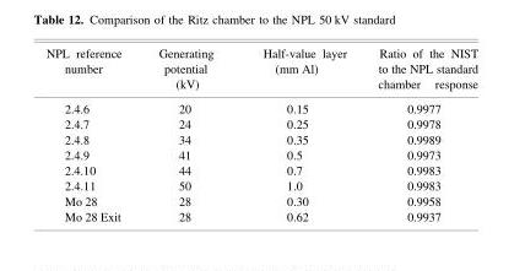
<table><thead><tr><td>NPL reference number</td><td>Generating potential (kV)</td><td>Half-value layer (mm Al)</td><td>Ratio of the NIST to the NPL standard chamber response</td></tr></thead><tbody><tr><td>2.4.6</td><td>20</td><td>0.15</td><td>0.9977</td></tr><tr><td>2.4.7</td><td>24</td><td>0.25</td><td>0.9978</td></tr><tr><td>2.4.8</td><td>34</td><td>0.35</td><td>0.9989</td></tr><tr><td>2.4.9</td><td>41</td><td>0.5</td><td>0.9973</td></tr><tr><td>2.4.10</td><td>44</td><td>0.7</td><td>0.9983</td></tr><tr><td>2.4.11</td><td>50</td><td>1.0</td><td>0.9983</td></tr><tr><td>Mo 28</td><td>28</td><td>0.30</td><td>0.9958</td></tr><tr><td>Mo 28 Exit</td><td>28</td><td>0.62</td><td>0.9937</td></tr></tbody></table>